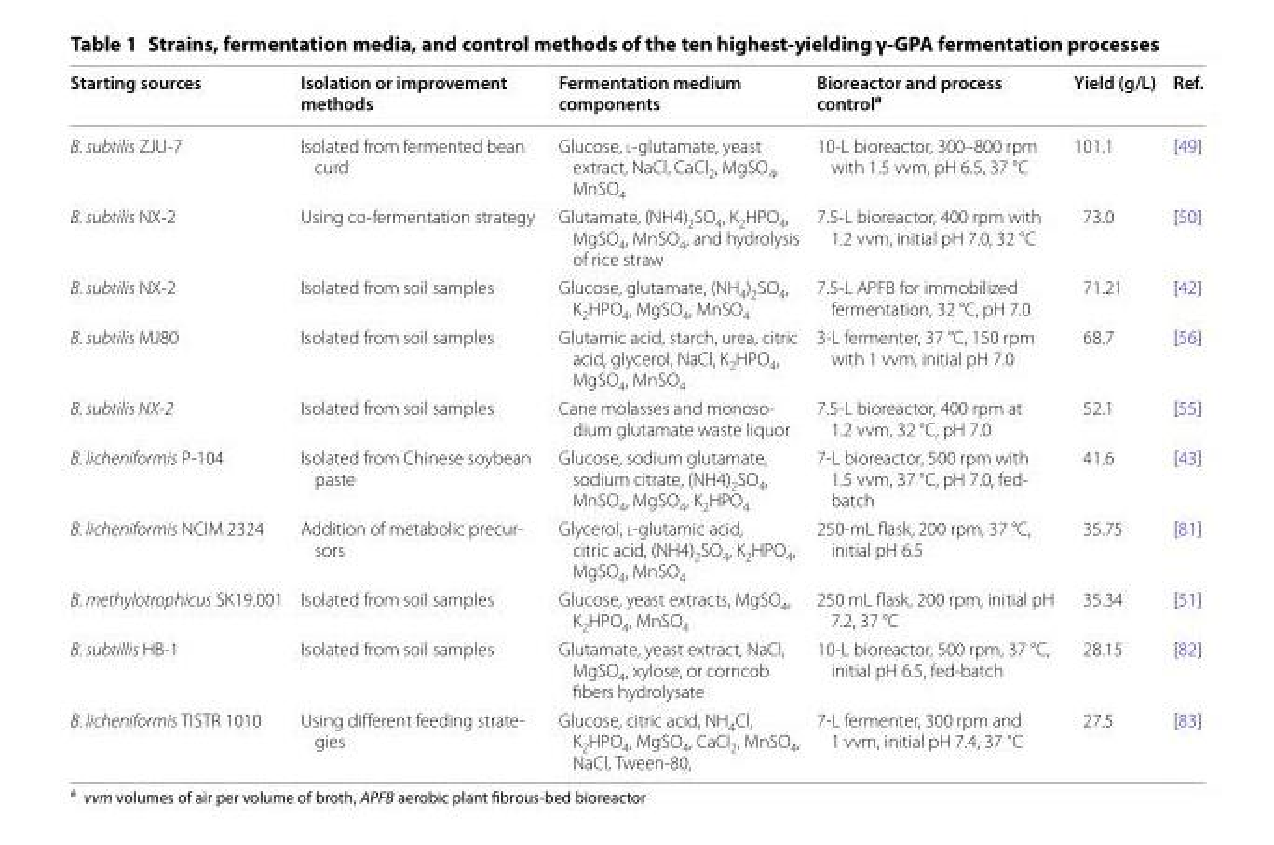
<table><thead><tr><td>Starting sources</td><td>Isolation or improvement methods</td><td>Fermentation medium components</td><td>Bioreactor and process control<sup>a</sup></td><td>Yield (g/L)</td><td>Ref.</td></tr></thead><tbody><tr><td>B. subtilis ZJU-7</td><td>Isolated from fermented bean curd</td><td>Glucose, l-glutamate, yeast extract, NaCl, CaCl<sub>2</sub>, MgSO<sub>4</sub>, MnSO<sub>4</sub></td><td>10-L bioreactor, 300–800 rpm with 1.5 vvm, pH 6.5, 37 °C</td><td>101.1</td><td>[49]</td></tr><tr><td>B. subtilis NX-2</td><td>Using co-fermentation strategy</td><td>Glutamate, (NH4)<sub>2</sub>SO<sub>4</sub>, K<sub>2</sub>HPO<sub>4</sub>, MgSO<sub>4</sub>, MnSO<sub>4</sub>, and hydrolysis of rice straw</td><td>7.5-L bioreactor, 400 rpm with 1.2 vvm, initial pH 7.0, 32 °C</td><td>73.0</td><td>[50]</td></tr><tr><td>B. subtilis NX-2</td><td>Isolated from soil samples</td><td>Glucose, glutamate, (NH<sub>4</sub>)<sub>2</sub>SO<sub>4</sub>, K<sub>2</sub>HPO<sub>4</sub>, MgSO<sub>4</sub>, MnSO<sub>4</sub></td><td>7.5-L APFB for immobilized fermentation, 32 °C, pH 7.0</td><td>71.21</td><td>[42]</td></tr><tr><td>B. subtilis MJ80</td><td>Isolated from soil samples</td><td>Glutamic acid, starch, urea, citric acid, glycerol, NaCl, K<sub>2</sub>HPO<sub>4</sub>, MgSO<sub>4</sub>, MnSO<sub>4</sub></td><td>3-L fermenter, 37 °C, 150 rpm with 1 vvm, initial pH 7.0</td><td>68.7</td><td>[56]</td></tr><tr><td>B. subtilis NX-2</td><td>Isolated from soil samples</td><td>Cane molasses and monoso- dium glutamate waste liquor</td><td>7.5-L bioreactor, 400 rpm at 1.2 vvm, 32 °C, pH 7.0</td><td>52.1</td><td>[55]</td></tr><tr><td>B. licheniformis P-104</td><td>Isolated from Chinese soybean paste</td><td>Glucose, sodium glutamate, sodium citrate, (NH4)<sub>2</sub>SO<sub>4</sub>, MnSO<sub>4</sub>, MgSO<sub>4</sub>, K<sub>2</sub>HPO<sub>4</sub></td><td>7-L bioreactor, 500 rpm with 1.5 vvm, 37 °C, pH 7.0, fed- batch</td><td>41.6</td><td>[43]</td></tr><tr><td>B. licheniformis NCIM 2324</td><td>Addition of metabolic precur- sors</td><td>Glycerol, l-glutamic acid, citric acid, (NH4)<sub>2</sub>SO<sub>4</sub>, K<sub>2</sub>HPO<sub>4</sub>, MgSO<sub>4</sub>, MnSO<sub>4</sub></td><td>250-mL flask, 200 rpm, 37 °C, initial pH 6.5</td><td>35.75</td><td>[81]</td></tr><tr><td>B. methylotrophicus SK19.001</td><td>Isolated from soil samples</td><td>Glucose, yeast extracts, MgSO<sub>4</sub>, K<sub>2</sub>HPO<sub>4</sub>, MnSO<sub>4</sub></td><td>250 mL flask, 200 rpm, initial pH 7.2, 37 °C</td><td>35.34</td><td>[51]</td></tr><tr><td>B. subtillis HB-1</td><td>Isolated from soil samples</td><td>Glutamate, yeast extract, NaCl, MgSO<sub>4</sub>, xylose, or corncob fibers hydrolysate</td><td>10-L bioreactor, 500 rpm, 37 °C, initial pH 6.5, fed-batch</td><td>28.15</td><td>[82]</td></tr><tr><td>B. licheniformis TISTR 1010</td><td>Using different feeding strate- gies</td><td>Glucose, citric acid, NH<sub>4</sub>Cl, K<sub>2</sub>HPO<sub>4</sub>, MgSO<sub>4</sub>, CaCl<sub>2</sub>, MnSO<sub>4</sub>, NaCl, Tween-80,</td><td>7-L fermenter, 300 rpm and 1 vvm, initial pH 7.4, 37 °C</td><td>27.5</td><td>[83]</td></tr></tbody></table>